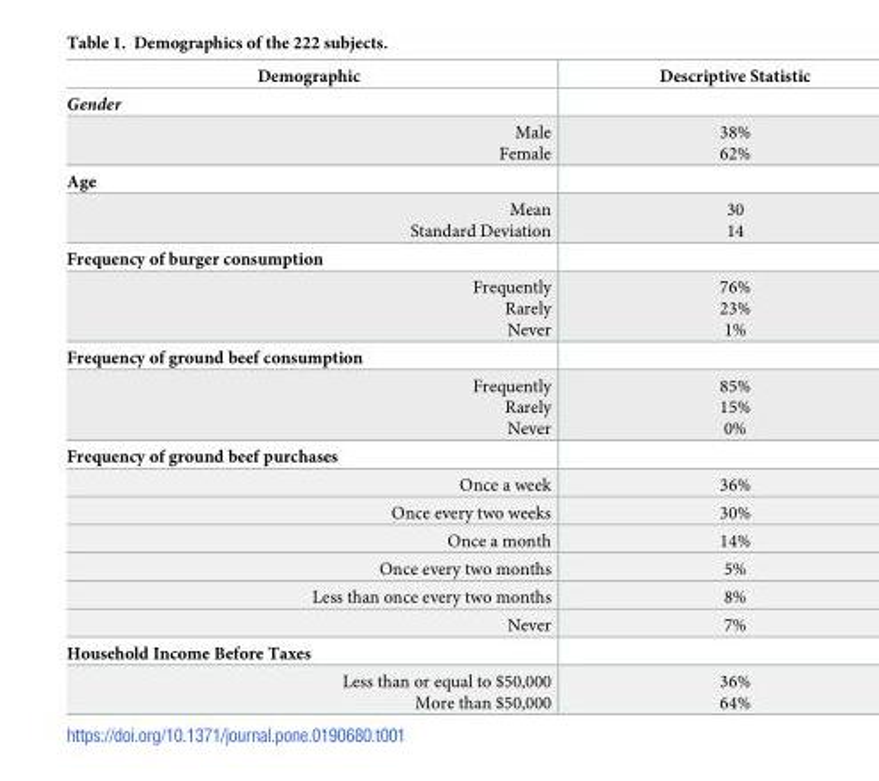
<table><thead><tr><td>Demographic</td><td>Descriptive Statistic</td></tr></thead><tbody><tr><td colspan="2">Gender</td></tr><tr><td>Male Female</td><td>38% 62%</td></tr><tr><td colspan="2">Age</td></tr><tr><td>Mean Standard Deviation</td><td>30 14</td></tr><tr><td colspan="2">Frequency of burger consumption</td></tr><tr><td>Frequently Rarely Never</td><td>76% 23% 1%</td></tr><tr><td colspan="2">Frequency of ground beef consumption</td></tr><tr><td>Frequently Rarely Never</td><td>85% 15% 0%</td></tr><tr><td colspan="2">Frequency of ground beef purchases</td></tr><tr><td>Once a week</td><td>36%</td></tr><tr><td>Once every two weeks</td><td>30%</td></tr><tr><td>Once a month</td><td>14%</td></tr><tr><td>Once every two months</td><td>5%</td></tr><tr><td>Less than once every two months</td><td>8%</td></tr><tr><td>Never</td><td>7%</td></tr><tr><td colspan="2">Household Income Before Taxes</td></tr><tr><td>Less than or equal to $50,000 More than $50,000</td><td>36% 64%</td></tr></tbody></table>